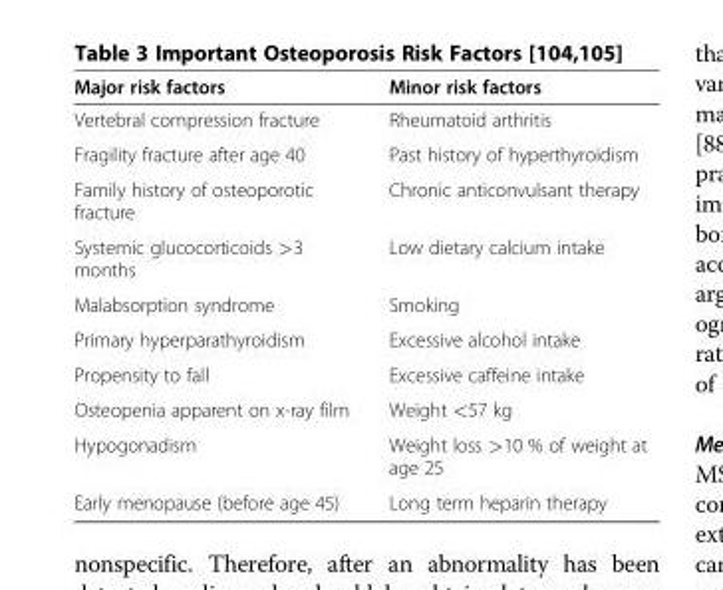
<table><thead><tr><td>Major risk factors</td><td>Minor risk factors</td></tr></thead><tbody><tr><td>Vertebral compression fracture</td><td>Rheumatoid arthritis</td></tr><tr><td>Fragility fracture after age 40</td><td>Past history of hyperthyroidism</td></tr><tr><td>Family history of osteoporotic fracture</td><td>Chronic anticonvulsant therapy</td></tr><tr><td>Systemic glucocorticoids &gt;3 months</td><td>Low dietary calcium intake</td></tr><tr><td>Malabsorption syndrome</td><td>Smoking</td></tr><tr><td>Primary hyperparathyroidism</td><td>Excessive alcohol intake</td></tr><tr><td>Propensity to fall</td><td>Excessive caffeine intake</td></tr><tr><td>Osteopenia apparent on x-ray film</td><td>Weight &lt;57 kg</td></tr><tr><td>Hypogonadism</td><td>Weight loss &gt;10 % of weight at age 25</td></tr><tr><td>Early menopause (before age 45)</td><td>Long term heparin therapy</td></tr></tbody></table>